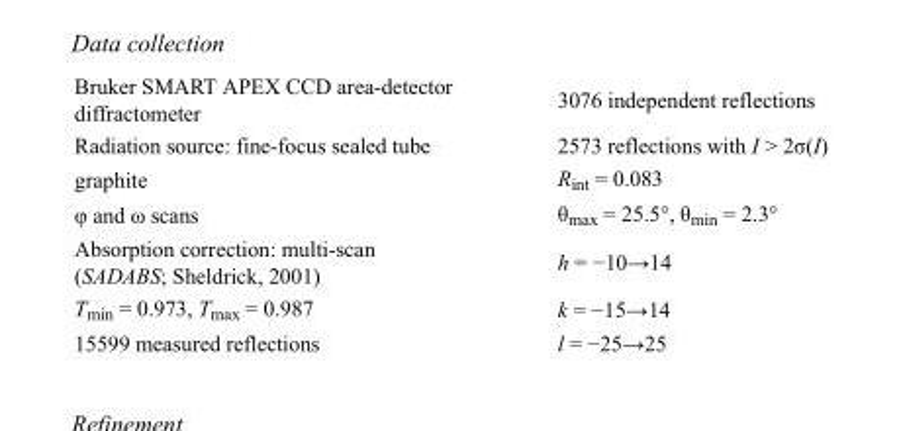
<table><tbody><tr><td>Bruker SMART APEX CCD area-detector diffractometer</td><td>3076 independent reflections</td></tr><tr><td>Radiation source: fine-focus sealed tube</td><td>2573 reflections with I &gt; 2σ(I)</td></tr><tr><td>graphite</td><td>R<sub>int</sub> = 0.083</td></tr><tr><td>φ and ω scans</td><td>θ<sub>max</sub> = 25.5°, θ<sub>min</sub> = 2.3°</td></tr><tr><td>Absorption correction: multi-scan (SADABS; Sheldrick, 2001)</td><td>h = −10→14</td></tr><tr><td>T<sub>min</sub> = 0.973, T<sub>max</sub> = 0.987</td><td>k = −15→14</td></tr><tr><td>15599 measured reflections</td><td>l = −25→25</td></tr></tbody></table>